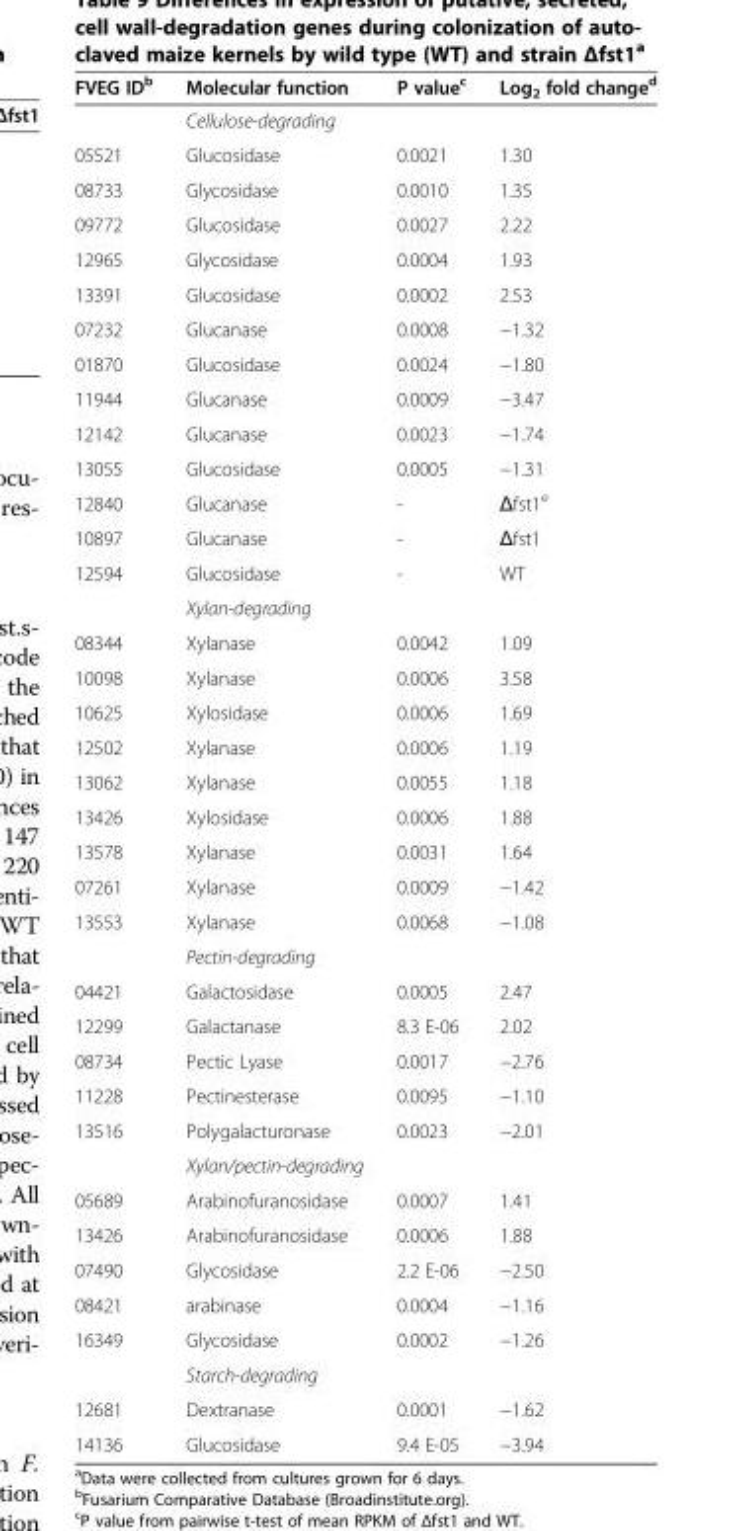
<table><thead><tr><td>FVEG ID<sup>b</sup></td><td>Molecular function</td><td>P value<sup>c</sup></td><td>Log<sub>2</sub> fold change<sup>d</sup></td></tr></thead><tbody><tr><td></td><td>Cellulose-degrading</td><td></td><td></td></tr><tr><td>05521</td><td>Glucosidase</td><td>0.0021</td><td>1.30</td></tr><tr><td>08733</td><td>Glycosidase</td><td>0.0010</td><td>1.35</td></tr><tr><td>09772</td><td>Glucosidase</td><td>0.0027</td><td>2.22</td></tr><tr><td>12965</td><td>Glycosidase</td><td>0.0004</td><td>1.93</td></tr><tr><td>13391</td><td>Glucosidase</td><td>0.0002</td><td>2.53</td></tr><tr><td>07232</td><td>Glucanase</td><td>0.0008</td><td>−1.32</td></tr><tr><td>01870</td><td>Glucosidase</td><td>0.0024</td><td>−1.80</td></tr><tr><td>11944</td><td>Glucanase</td><td>0.0009</td><td>−3.47</td></tr><tr><td>12142</td><td>Glucanase</td><td>0.0023</td><td>−1.74</td></tr><tr><td>13055</td><td>Glucosidase</td><td>0.0005</td><td>−1.31</td></tr><tr><td>12840</td><td>Glucanase</td><td>-</td><td>Δfst1<sup>e</sup></td></tr><tr><td>10897</td><td>Glucanase</td><td>-</td><td>Δfst1</td></tr><tr><td rowspan="2">12594</td><td>Glucosidase</td><td>-</td><td>WT</td></tr><tr><td>Xylan-degrading</td><td></td><td></td></tr><tr><td>08344</td><td>Xylanase</td><td>0.0042</td><td>1.09</td></tr><tr><td>10098</td><td>Xylanase</td><td>0.0006</td><td>3.58</td></tr><tr><td>10625</td><td>Xylosidase</td><td>0.0006</td><td>1.69</td></tr><tr><td>12502</td><td>Xylanase</td><td>0.0006</td><td>1.19</td></tr><tr><td>13062</td><td>Xylanase</td><td>0.0055</td><td>1.18</td></tr><tr><td>13426</td><td>Xylosidase</td><td>0.0006</td><td>1.88</td></tr><tr><td>13578</td><td>Xylanase</td><td>0.0031</td><td>1.64</td></tr><tr><td>07261</td><td>Xylanase</td><td>0.0009</td><td>−1.42</td></tr><tr><td rowspan="2">13553</td><td>Xylanase</td><td>0.0068</td><td>−1.08</td></tr><tr><td>Pectin-degrading</td><td></td><td></td></tr><tr><td>04421</td><td>Galactosidase</td><td>0.0005</td><td>2.47</td></tr><tr><td>12299</td><td>Galactanase</td><td>8.3 E-06</td><td>2.02</td></tr><tr><td>08734</td><td>Pectic Lyase</td><td>0.0017</td><td>−2.76</td></tr><tr><td>11228</td><td>Pectinesterase</td><td>0.0095</td><td>−1.10</td></tr><tr><td rowspan="2">13516</td><td>Polygalacturonase</td><td>0.0023</td><td>−2.01</td></tr><tr><td>Xylan/pectin-degrading</td><td></td><td></td></tr><tr><td>05689</td><td>Arabinofuranosidase</td><td>0.0007</td><td>1.41</td></tr><tr><td>13426</td><td>Arabinofuranosidase</td><td>0.0006</td><td>1.88</td></tr><tr><td>07490</td><td>Glycosidase</td><td>2.2 E-06</td><td>−2.50</td></tr><tr><td>08421</td><td>arabinase</td><td>0.0004</td><td>−1.16</td></tr><tr><td rowspan="2">16349</td><td>Glycosidase</td><td>0.0002</td><td>−1.26</td></tr><tr><td>Starch-degrading</td><td></td><td></td></tr><tr><td>12681</td><td>Dextranase</td><td>0.0001</td><td>−1.62</td></tr><tr><td>14136</td><td>Glucosidase</td><td>9.4 E-05</td><td>−3.94</td></tr></tbody></table>